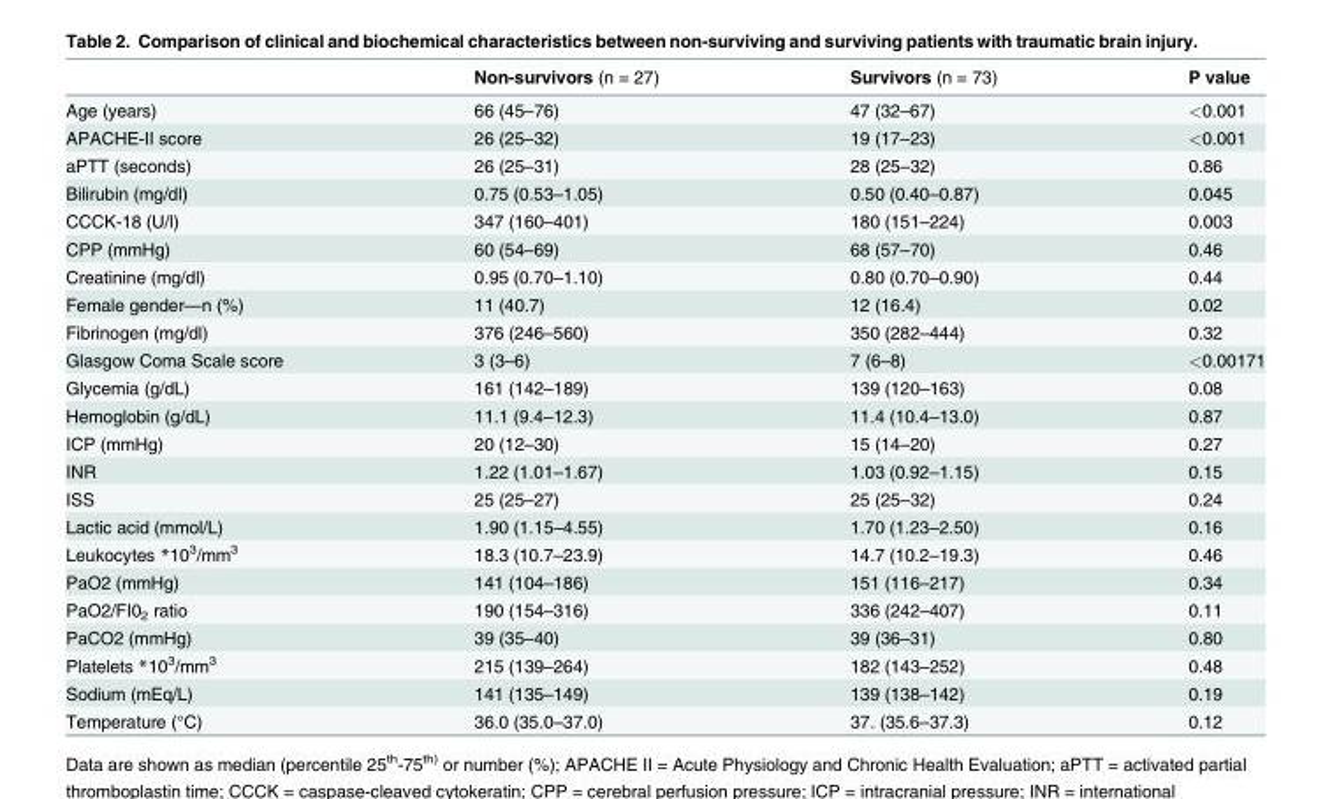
<table><thead><tr><td></td><td>Non-survivors (n = 27)</td><td>Survivors (n = 73)</td><td>P value</td></tr></thead><tbody><tr><td>Age (years)</td><td>66 (45–76)</td><td>47 (32–67)</td><td>&lt;0.001</td></tr><tr><td>APACHE-II score</td><td>26 (25–32)</td><td>19 (17–23)</td><td>&lt;0.001</td></tr><tr><td>aPTT (seconds)</td><td>26 (25–31)</td><td>28 (25–32)</td><td>0.86</td></tr><tr><td>Bilirubin (mg/dl)</td><td>0.75 (0.53–1.05)</td><td>0.50 (0.40–0.87)</td><td>0.045</td></tr><tr><td>CCCK-18 (U/l)</td><td>347 (160–401)</td><td>180 (151–224)</td><td>0.003</td></tr><tr><td>CPP (mmHg)</td><td>60 (54–69)</td><td>68 (57–70)</td><td>0.46</td></tr><tr><td>Creatinine (mg/dl)</td><td>0.95 (0.70–1.10)</td><td>0.80 (0.70–0.90)</td><td>0.44</td></tr><tr><td>Female gender—n (%)</td><td>11 (40.7)</td><td>12 (16.4)</td><td>0.02</td></tr><tr><td>Fibrinogen (mg/dl)</td><td>376 (246–560)</td><td>350 (282–444)</td><td>0.32</td></tr><tr><td>Glasgow Coma Scale score</td><td>3 (3–6)</td><td>7 (6–8)</td><td>&lt;0.00171</td></tr><tr><td>Glycemia (g/dL)</td><td>161 (142–189)</td><td>139 (120–163)</td><td>0.08</td></tr><tr><td>Hemoglobin (g/dL)</td><td>11.1 (9.4–12.3)</td><td>11.4 (10.4–13.0)</td><td>0.87</td></tr><tr><td>ICP (mmHg)</td><td>20 (12–30)</td><td>15 (14–20)</td><td>0.27</td></tr><tr><td>INR</td><td>1.22 (1.01–1.67)</td><td>1.03 (0.92–1.15)</td><td>0.15</td></tr><tr><td>ISS</td><td>25 (25–27)</td><td>25 (25–32)</td><td>0.24</td></tr><tr><td>Lactic acid (mmol/L)</td><td>1.90 (1.15–4.55)</td><td>1.70 (1.23–2.50)</td><td>0.16</td></tr><tr><td>Leukocytes *10<sup>3</sup>/mm<sup>3</sup></td><td>18.3 (10.7–23.9)</td><td>14.7 (10.2–19.3)</td><td>0.46</td></tr><tr><td>PaO2 (mmHg)</td><td>141 (104–186)</td><td>151 (116–217)</td><td>0.34</td></tr><tr><td>PaO2/FI0<sub>2</sub> ratio</td><td>190 (154–316)</td><td>336 (242–407)</td><td>0.11</td></tr><tr><td>PaCO2 (mmHg)</td><td>39 (35–40)</td><td>39 (36–31)</td><td>0.80</td></tr><tr><td>Platelets *10<sup>3</sup>/mm<sup>3</sup></td><td>215 (139–264)</td><td>182 (143–252)</td><td>0.48</td></tr><tr><td>Sodium (mEq/L)</td><td>141 (135–149)</td><td>139 (138–142)</td><td>0.19</td></tr><tr><td>Temperature (°C)</td><td>36.0 (35.0–37.0)</td><td>37. (35.6–37.3)</td><td>0.12</td></tr></tbody></table>